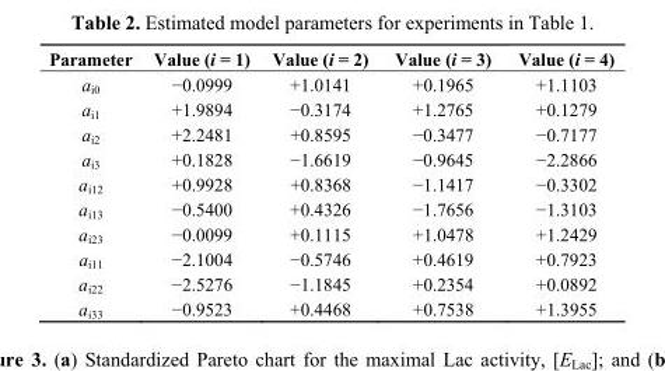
<table><thead><tr><td>Parameter</td><td>Value (i = 1)</td><td>Value (i = 2)</td><td>Value (i = 3)</td><td>Value (i = 4)</td></tr></thead><tbody><tr><td>a<sub>i0</sub></td><td>−0.0999</td><td>+1.0141</td><td>+0.1965</td><td>+1.1103</td></tr><tr><td>a<sub>i1</sub></td><td>+1.9894</td><td>−0.3174</td><td>+1.2765</td><td>+0.1279</td></tr><tr><td>a<sub>i2</sub></td><td>+2.2481</td><td>+0.8595</td><td>−0.3477</td><td>−0.7177</td></tr><tr><td>a<sub>i3</sub></td><td>+0.1828</td><td>−1.6619</td><td>−0.9645</td><td>−2.2866</td></tr><tr><td>a<sub>i12</sub></td><td>+0.9928</td><td>+0.8368</td><td>−1.1417</td><td>−0.3302</td></tr><tr><td>a<sub>i13</sub></td><td>−0.5400</td><td>+0.4326</td><td>−1.7656</td><td>−1.3103</td></tr><tr><td>a<sub>i23</sub></td><td>−0.0099</td><td>+0.1115</td><td>+1.0478</td><td>+1.2429</td></tr><tr><td>a<sub>i11</sub></td><td>−2.1004</td><td>−0.5746</td><td>+0.4619</td><td>+0.7923</td></tr><tr><td>a<sub>i22</sub></td><td>−2.5276</td><td>−1.1845</td><td>+0.2354</td><td>+0.0892</td></tr><tr><td>a<sub>i33</sub></td><td>−0.9523</td><td>+0.4468</td><td>+0.7538</td><td>+1.3955</td></tr></tbody></table>